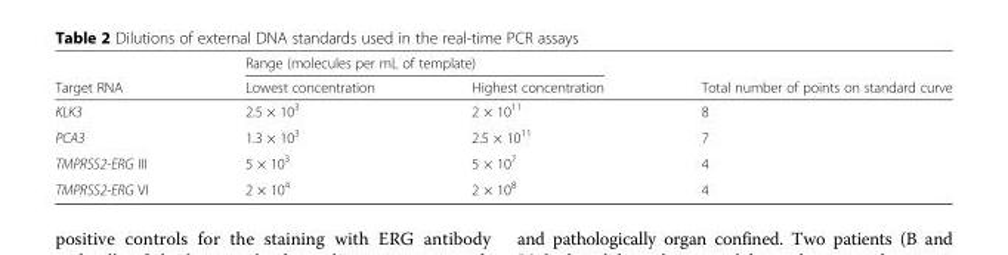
<table><thead><tr><td rowspan="2">Target RNA</td><td colspan="2">Range (molecules per mL of template)</td><td rowspan="2">Total number of points on standard curve</td></tr><tr><td>Lowest concentration</td><td>Highest concentration</td></tr></thead><tbody><tr><td>KLK3</td><td>2.5 × 10<sup>3</sup></td><td>2 × 10<sup>11</sup></td><td>8</td></tr><tr><td>PCA3</td><td>1.3 × 10<sup>3</sup></td><td>2.5 × 10<sup>11</sup></td><td>7</td></tr><tr><td>TMPRSS2-ERG III</td><td>5 × 10<sup>3</sup></td><td>5 × 10<sup>7</sup></td><td>4</td></tr><tr><td>TMPRSS2-ERG VI</td><td>2 × 10<sup>4</sup></td><td>2 × 10<sup>8</sup></td><td>4</td></tr></tbody></table>